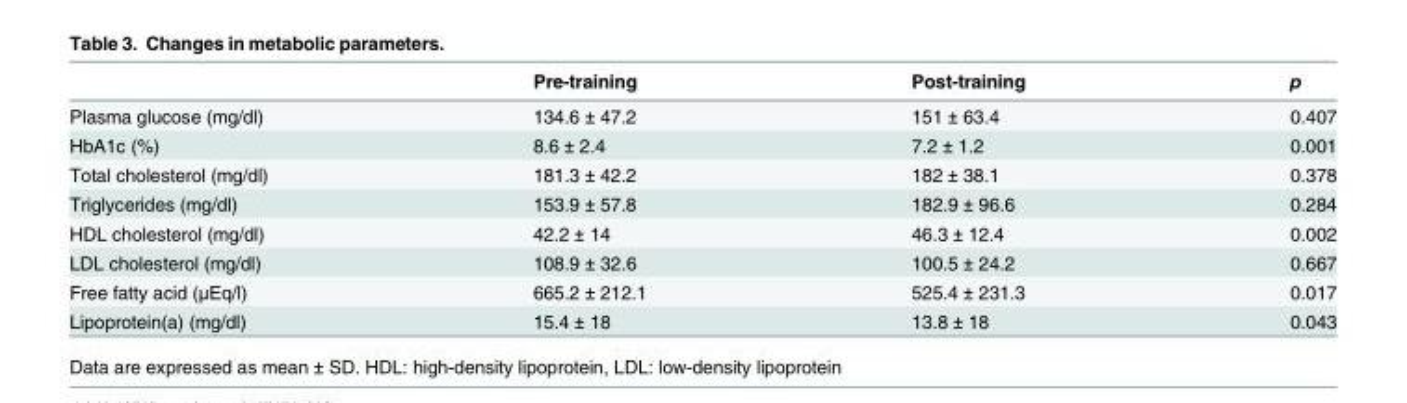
<table><thead><tr><td></td><td>Pre-training</td><td>Post-training</td><td>p</td></tr></thead><tbody><tr><td>Plasma glucose (mg/dl)</td><td>134.6 ± 47.2</td><td>151 ± 63.4</td><td>0.407</td></tr><tr><td>HbA1c (%)</td><td>8.6 ± 2.4</td><td>7.2 ± 1.2</td><td>0.001</td></tr><tr><td>Total cholesterol (mg/dl)</td><td>181.3 ± 42.2</td><td>182 ± 38.1</td><td>0.378</td></tr><tr><td>Triglycerides (mg/dl)</td><td>153.9 ± 57.8</td><td>182.9 ± 96.6</td><td>0.284</td></tr><tr><td>HDL cholesterol (mg/dl)</td><td>42.2 ± 14</td><td>46.3 ± 12.4</td><td>0.002</td></tr><tr><td>LDL cholesterol (mg/dl)</td><td>108.9 ± 32.6</td><td>100.5 ± 24.2</td><td>0.667</td></tr><tr><td>Free fatty acid (μEq/l)</td><td>665.2 ± 212.1</td><td>525.4 ± 231.3</td><td>0.017</td></tr><tr><td>Lipoprotein(a) (mg/dl)</td><td>15.4 ± 18</td><td>13.8 ± 18</td><td>0.043</td></tr></tbody></table>